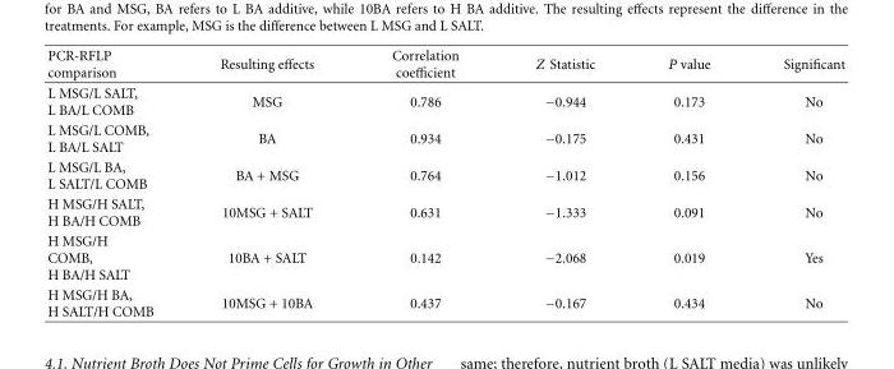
<table><thead><tr><td>PCR-RFLP comparison</td><td>Resulting effects</td><td>Correlation coefficient</td><td>Z Statistic</td><td>P value</td><td>Significant</td></tr></thead><tbody><tr><td>L MSG/L SALT, L BA/L COMB</td><td>MSG</td><td>0.786</td><td>−0.944</td><td>0.173</td><td>No</td></tr><tr><td>L MSG/L COMB, L BA/L SALT</td><td>BA</td><td>0.934</td><td>−0.175</td><td>0.431</td><td>No</td></tr><tr><td>L MSG/L BA, L SALT/L COMB</td><td>BA + MSG</td><td>0.764</td><td>−1.012</td><td>0.156</td><td>No</td></tr><tr><td>H MSG/H SALT, H BA/H COMB</td><td>10MSG + SALT</td><td>0.631</td><td>−1.333</td><td>0.091</td><td>No</td></tr><tr><td>H MSG/H COMB, H BA/H SALT</td><td>10BA + SALT</td><td>0.142</td><td>−2.068</td><td>0.019</td><td>Yes</td></tr><tr><td>H MSG/H BA, H SALT/H COMB</td><td>10MSG + 10BA</td><td>0.437</td><td>−0.167</td><td>0.434</td><td>No</td></tr></tbody></table>